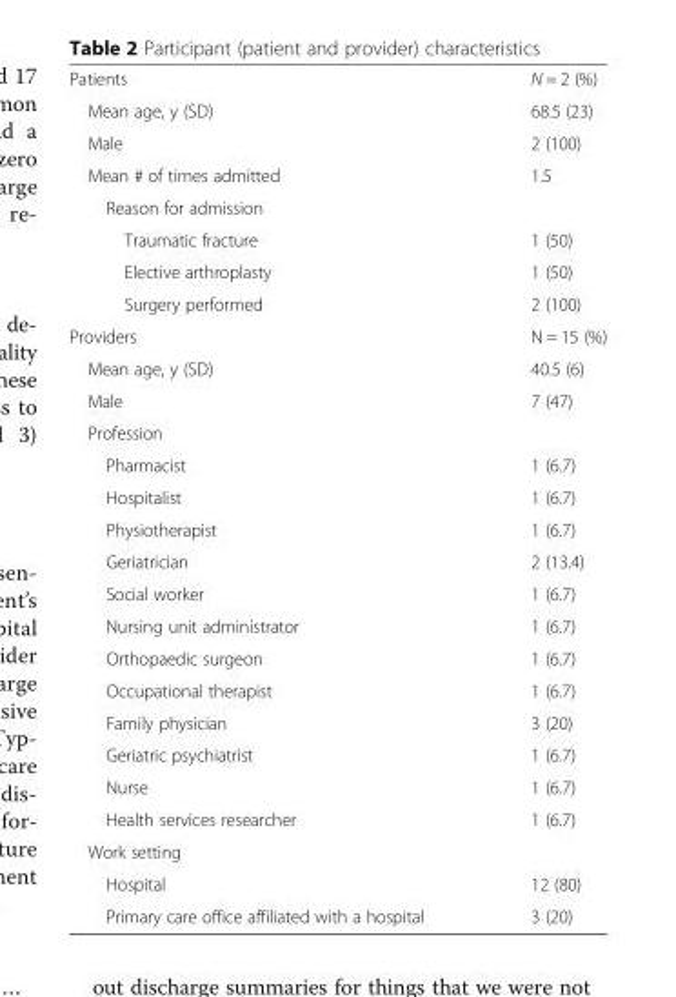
<table><tbody><tr><td>Patients</td><td>N = 2 (%)</td></tr><tr><td>Mean age, y (SD)</td><td>68.5 (23)</td></tr><tr><td>Male</td><td>2 (100)</td></tr><tr><td>Mean # of times admitted</td><td>1.5</td></tr><tr><td colspan="2">Reason for admission</td></tr><tr><td>Traumatic fracture</td><td>1 (50)</td></tr><tr><td>Elective arthroplasty</td><td>1 (50)</td></tr><tr><td>Surgery performed</td><td>2 (100)</td></tr><tr><td>Providers</td><td>N = 15 (%)</td></tr><tr><td>Mean age, y (SD)</td><td>40.5 (6)</td></tr><tr><td>Male</td><td>7 (47)</td></tr><tr><td colspan="2">Profession</td></tr><tr><td>Pharmacist</td><td>1 (6.7)</td></tr><tr><td>Hospitalist</td><td>1 (6.7)</td></tr><tr><td>Physiotherapist</td><td>1 (6.7)</td></tr><tr><td>Geriatrician</td><td>2 (13.4)</td></tr><tr><td>Social worker</td><td>1 (6.7)</td></tr><tr><td>Nursing unit administrator</td><td>1 (6.7)</td></tr><tr><td>Orthopaedic surgeon</td><td>1 (6.7)</td></tr><tr><td>Occupational therapist</td><td>1 (6.7)</td></tr><tr><td>Family physician</td><td>3 (20)</td></tr><tr><td>Geriatric psychiatrist</td><td>1 (6.7)</td></tr><tr><td>Nurse</td><td>1 (6.7)</td></tr><tr><td>Health services researcher</td><td>1 (6.7)</td></tr><tr><td colspan="2">Work setting</td></tr><tr><td>Hospital</td><td>12 (80)</td></tr><tr><td>Primary care office affiliated with a hospital</td><td>3 (20)</td></tr></tbody></table>